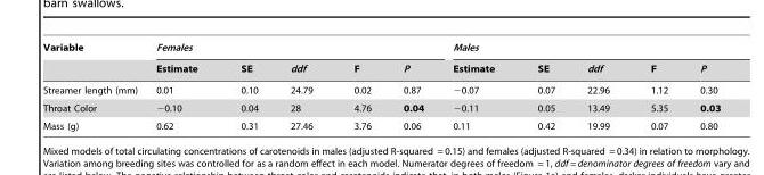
<table><thead><tr><td rowspan="2">Variable</td><td colspan="5">Females</td><td colspan="5">Males</td></tr><tr><td>Estimate</td><td>SE</td><td>ddf</td><td>F</td><td>P</td><td>Estimate</td><td>SE</td><td>ddf</td><td>F</td><td>P</td></tr></thead><tbody><tr><td>Streamer length (mm)</td><td>0.01</td><td>0.10</td><td>24.79</td><td>0.02</td><td>0.87</td><td>−0.07</td><td>0.07</td><td>22.96</td><td>1.12</td><td>0.30</td></tr><tr><td>Throat Color</td><td>−0.10</td><td>0.04</td><td>28</td><td>4.76</td><td>0.04</td><td>−0.11</td><td>0.05</td><td>13.49</td><td>5.35</td><td>0.03</td></tr><tr><td>Mass (g)</td><td>0.62</td><td>0.31</td><td>27.46</td><td>3.76</td><td>0.06</td><td>0.11</td><td>0.42</td><td>19.99</td><td>0.07</td><td>0.80</td></tr></tbody></table>